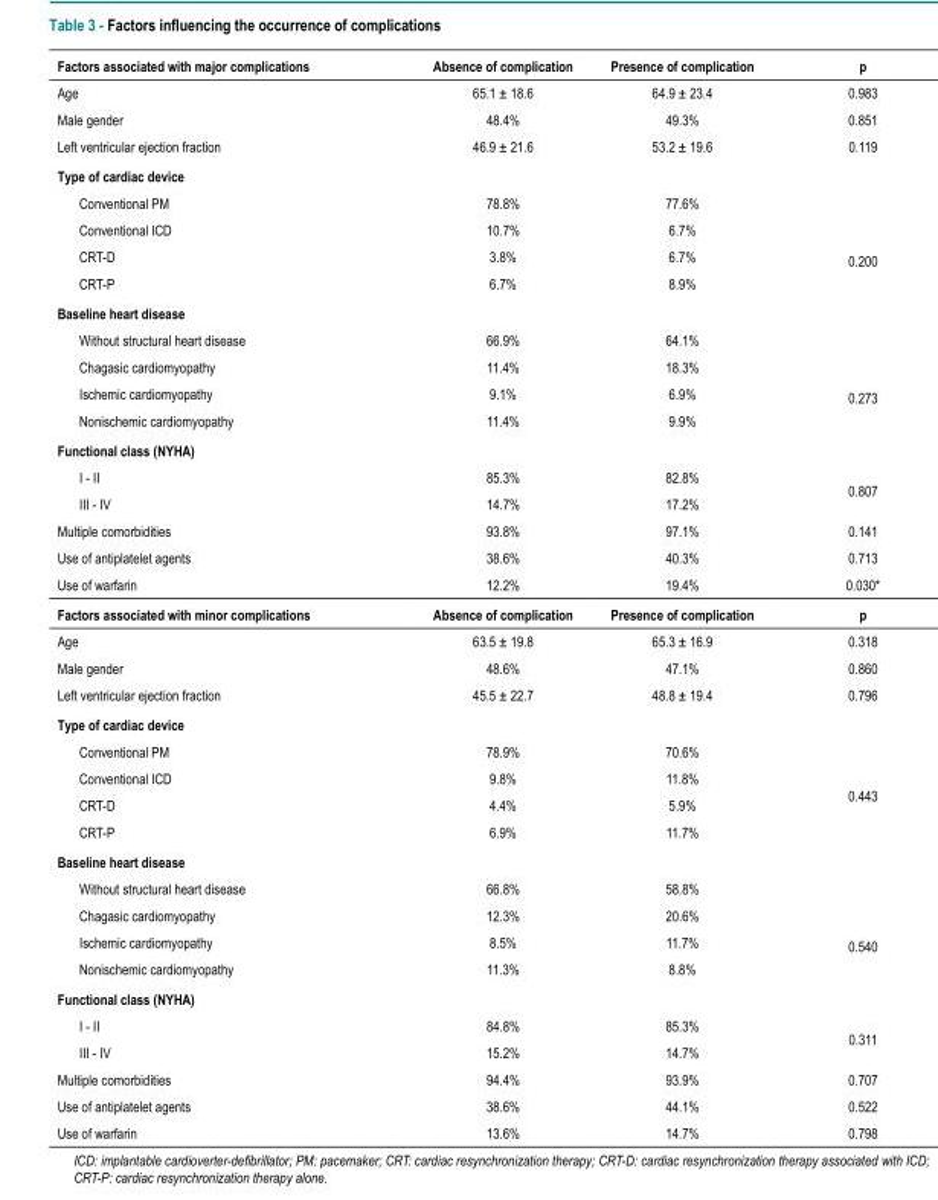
<table><tbody><tr><td>Factors associated with major complications</td><td>Absence of complication</td><td>Presence of complication</td><td>p</td></tr><tr><td>Age</td><td>65.1 ± 18.6</td><td>64.9 ± 23.4</td><td>0.983</td></tr><tr><td>Male gender</td><td>48.4%</td><td>49.3%</td><td>0.851</td></tr><tr><td>Left ventricular ejection fraction</td><td>46.9 ± 21.6</td><td>53.2 ± 19.6</td><td>0.119</td></tr><tr><td colspan="4">Type of cardiac device</td></tr><tr><td>Conventional PM</td><td>78.8%</td><td>77.6%</td><td rowspan="4">0.200</td></tr><tr><td>Conventional ICD</td><td>10.7%</td><td>6.7%</td></tr><tr><td>CRT-D</td><td>3.8%</td><td>6.7%</td></tr><tr><td>CRT-P</td><td>6.7%</td><td>8.9%</td></tr><tr><td colspan="4">Baseline heart disease</td></tr><tr><td>Without structural heart disease</td><td>66.9%</td><td>64.1%</td><td rowspan="4">0.273</td></tr><tr><td>Chagasic cardiomyopathy</td><td>11.4%</td><td>18.3%</td></tr><tr><td>Ischemic cardiomyopathy</td><td>9.1%</td><td>6.9%</td></tr><tr><td>Nonischemic cardiomyopathy</td><td>11.4%</td><td>9.9%</td></tr><tr><td colspan="4">Functional class (NYHA)</td></tr><tr><td>I - II</td><td>85.3%</td><td>82.8%</td><td rowspan="2">0.807</td></tr><tr><td>III - IV</td><td>14.7%</td><td>17.2%</td></tr><tr><td>Multiple comorbidities</td><td>93.8%</td><td>97.1%</td><td>0.141</td></tr><tr><td>Use of antiplatelet agents</td><td>38.6%</td><td>40.3%</td><td>0.713</td></tr><tr><td>Use of warfarin</td><td>12.2%</td><td>19.4%</td><td>0.030*</td></tr><tr><td>Factors associated with minor complications</td><td>Absence of complication</td><td>Presence of complication</td><td>p</td></tr><tr><td>Age</td><td>63.5 ± 19.8</td><td>65.3 ± 16.9</td><td>0.318</td></tr><tr><td>Male gender</td><td>48.6%</td><td>47.1%</td><td>0.860</td></tr><tr><td>Left ventricular ejection fraction</td><td>45.5 ± 22.7</td><td>48.8 ± 19.4</td><td>0.796</td></tr><tr><td colspan="4">Type of cardiac device</td></tr><tr><td>Conventional PM</td><td>78.9%</td><td>70.6%</td><td rowspan="3">0.443</td></tr><tr><td>Conventional ICD</td><td>9.8%</td><td>11.8%</td></tr><tr><td>CRT-D</td><td>4.4%</td><td>5.9%</td></tr><tr><td>CRT-P</td><td>6.9%</td><td>11.7%</td><td></td></tr><tr><td colspan="4">Baseline heart disease</td></tr><tr><td>Without structural heart disease</td><td>66.8%</td><td>58.8%</td><td rowspan="4">0.540</td></tr><tr><td>Chagasic cardiomyopathy</td><td>12.3%</td><td>20.6%</td></tr><tr><td>Ischemic cardiomyopathy</td><td>8.5%</td><td>11.7%</td></tr><tr><td>Nonischemic cardiomyopathy</td><td>11.3%</td><td>8.8%</td></tr><tr><td colspan="4">Functional class (NYHA)</td></tr><tr><td>I - II</td><td>84.8%</td><td>85.3%</td><td rowspan="2">0.311</td></tr><tr><td>III - IV</td><td>15.2%</td><td>14.7%</td></tr><tr><td>Multiple comorbidities</td><td>94.4%</td><td>93.9%</td><td>0.707</td></tr><tr><td>Use of antiplatelet agents</td><td>38.6%</td><td>44.1%</td><td>0.522</td></tr><tr><td>Use of warfarin</td><td>13.6%</td><td>14.7%</td><td>0.798</td></tr></tbody></table>